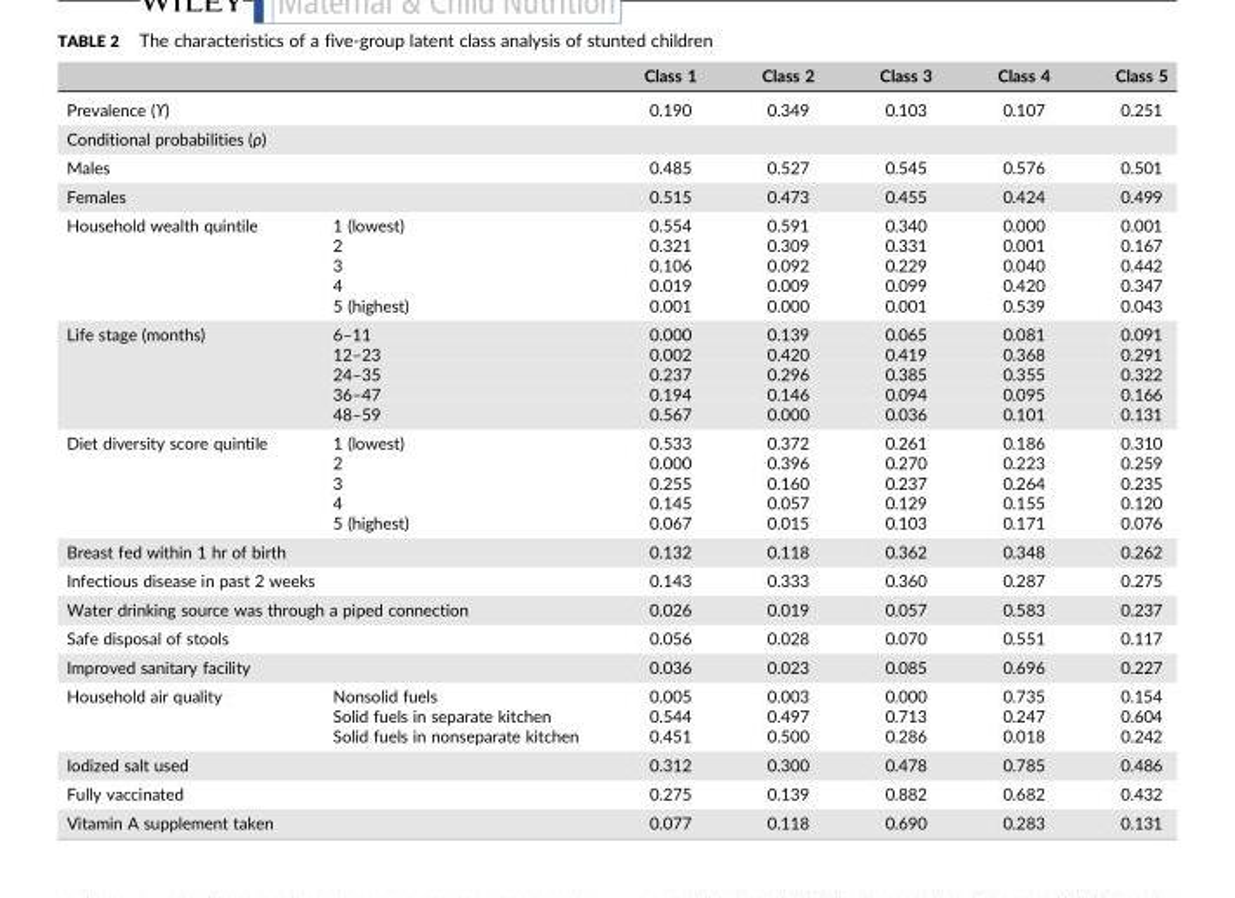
<table><thead><tr><td></td><td></td><td>Class 1</td><td>Class 2</td><td>Class 3</td><td>Class 4</td><td>Class 5</td></tr></thead><tbody><tr><td colspan="2">Prevalence (ϒ)</td><td>0.190</td><td>0.349</td><td>0.103</td><td>0.107</td><td>0.251</td></tr><tr><td colspan="7">Conditional probabilities (ρ)</td></tr><tr><td colspan="2">Males</td><td>0.485</td><td>0.527</td><td>0.545</td><td>0.576</td><td>0.501</td></tr><tr><td colspan="2">Females</td><td>0.515</td><td>0.473</td><td>0.455</td><td>0.424</td><td>0.499</td></tr><tr><td rowspan="5">Household wealth quintile</td><td>1 (lowest)</td><td>0.554</td><td>0.591</td><td>0.340</td><td>0.000</td><td>0.001</td></tr><tr><td>2</td><td>0.321</td><td>0.309</td><td>0.331</td><td>0.001</td><td>0.167</td></tr><tr><td>3</td><td>0.106</td><td>0.092</td><td>0.229</td><td>0.040</td><td>0.442</td></tr><tr><td>4</td><td>0.019</td><td>0.009</td><td>0.099</td><td>0.420</td><td>0.347</td></tr><tr><td>5 (highest)</td><td>0.001</td><td>0.000</td><td>0.001</td><td>0.539</td><td>0.043</td></tr><tr><td rowspan="5">Life stage (months)</td><td>6–11</td><td>0.000</td><td>0.139</td><td>0.065</td><td>0.081</td><td>0.091</td></tr><tr><td>12–23</td><td>0.002</td><td>0.420</td><td>0.419</td><td>0.368</td><td>0.291</td></tr><tr><td>24–35</td><td>0.237</td><td>0.296</td><td>0.385</td><td>0.355</td><td>0.322</td></tr><tr><td>36–47</td><td>0.194</td><td>0.146</td><td>0.094</td><td>0.095</td><td>0.166</td></tr><tr><td>48–59</td><td>0.567</td><td>0.000</td><td>0.036</td><td>0.101</td><td>0.131</td></tr><tr><td rowspan="5">Diet diversity score quintile</td><td>1 (lowest)</td><td>0.533</td><td>0.372</td><td>0.261</td><td>0.186</td><td>0.310</td></tr><tr><td>2</td><td>0.000</td><td>0.396</td><td>0.270</td><td>0.223</td><td>0.259</td></tr><tr><td>3</td><td>0.255</td><td>0.160</td><td>0.237</td><td>0.264</td><td>0.235</td></tr><tr><td>4</td><td>0.145</td><td>0.057</td><td>0.129</td><td>0.155</td><td>0.120</td></tr><tr><td>5 (highest)</td><td>0.067</td><td>0.015</td><td>0.103</td><td>0.171</td><td>0.076</td></tr><tr><td colspan="2">Breast fed within 1 hr of birth</td><td>0.132</td><td>0.118</td><td>0.362</td><td>0.348</td><td>0.262</td></tr><tr><td colspan="2">Infectious disease in past 2 weeks</td><td>0.143</td><td>0.333</td><td>0.360</td><td>0.287</td><td>0.275</td></tr><tr><td colspan="2">Water drinking source was through a piped connection</td><td>0.026</td><td>0.019</td><td>0.057</td><td>0.583</td><td>0.237</td></tr><tr><td colspan="2">Safe disposal of stools</td><td>0.056</td><td>0.028</td><td>0.070</td><td>0.551</td><td>0.117</td></tr><tr><td colspan="2">Improved sanitary facility</td><td>0.036</td><td>0.023</td><td>0.085</td><td>0.696</td><td>0.227</td></tr><tr><td rowspan="3">Household air quality</td><td>Nonsolid fuels</td><td>0.005</td><td>0.003</td><td>0.000</td><td>0.735</td><td>0.154</td></tr><tr><td>Solid fuels in separate kitchen</td><td>0.544</td><td>0.497</td><td>0.713</td><td>0.247</td><td>0.604</td></tr><tr><td>Solid fuels in nonseparate kitchen</td><td>0.451</td><td>0.500</td><td>0.286</td><td>0.018</td><td>0.242</td></tr><tr><td colspan="2">Iodized salt used</td><td>0.312</td><td>0.300</td><td>0.478</td><td>0.785</td><td>0.486</td></tr><tr><td colspan="2">Fully vaccinated</td><td>0.275</td><td>0.139</td><td>0.882</td><td>0.682</td><td>0.432</td></tr><tr><td colspan="2">Vitamin A supplement taken</td><td>0.077</td><td>0.118</td><td>0.690</td><td>0.283</td><td>0.131</td></tr></tbody></table>